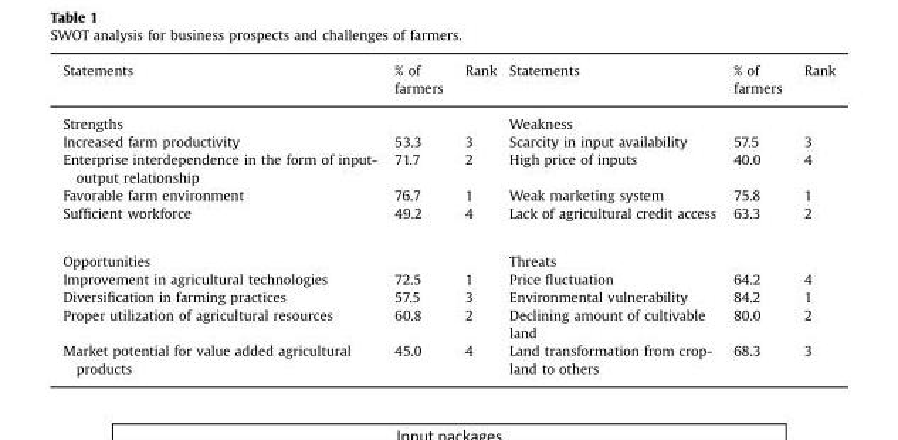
<table><thead><tr><td>Statements</td><td>% of farmers</td><td>Rank</td><td>Statements</td><td>% of farmers</td><td>Rank</td></tr></thead><tbody><tr><td colspan="3">Strengths</td><td colspan="3">Weakness</td></tr><tr><td>Increased farm productivity</td><td>53.3</td><td>3</td><td>Scarcity in input availability</td><td>57.5</td><td>3</td></tr><tr><td>Enterprise interdependence in the form of input- output relationship</td><td>71.7</td><td>2</td><td>High price of inputs</td><td>40.0</td><td>4</td></tr><tr><td>Favorable farm environment</td><td>76.7</td><td>1</td><td>Weak marketing system</td><td>75.8</td><td>1</td></tr><tr><td>Sufficient workforce</td><td>49.2</td><td>4</td><td>Lack of agricultural credit access</td><td>63.3</td><td>2</td></tr><tr><td colspan="3">Opportunities</td><td colspan="3">Threats</td></tr><tr><td>Improvement in agricultural technologies</td><td>72.5</td><td>1</td><td>Price fluctuation</td><td>64.2</td><td>4</td></tr><tr><td>Diversification in farming practices</td><td>57.5</td><td>3</td><td>Environmental vulnerability</td><td>84.2</td><td>1</td></tr><tr><td>Proper utilization of agricultural resources</td><td>60.8</td><td>2</td><td>Declining amount of cultivable land</td><td>80.0</td><td>2</td></tr><tr><td>Market potential for value added agricultural products</td><td>45.0</td><td>4</td><td>Land transformation from crop- land to others</td><td>68.3</td><td>3</td></tr></tbody></table>